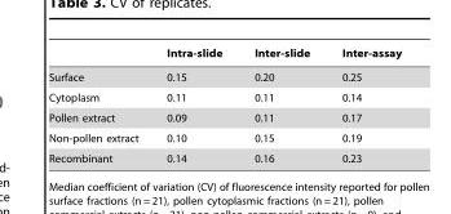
<table><thead><tr><td></td><td>Intra-slide</td><td>Inter-slide</td><td>Inter-assay</td></tr></thead><tbody><tr><td>Surface</td><td>0.15</td><td>0.20</td><td>0.25</td></tr><tr><td>Cytoplasm</td><td>0.11</td><td>0.11</td><td>0.14</td></tr><tr><td>Pollen extract</td><td>0.09</td><td>0.11</td><td>0.17</td></tr><tr><td>Non-pollen extract</td><td>0.10</td><td>0.15</td><td>0.19</td></tr><tr><td>Recombinant</td><td>0.14</td><td>0.16</td><td>0.23</td></tr></tbody></table>